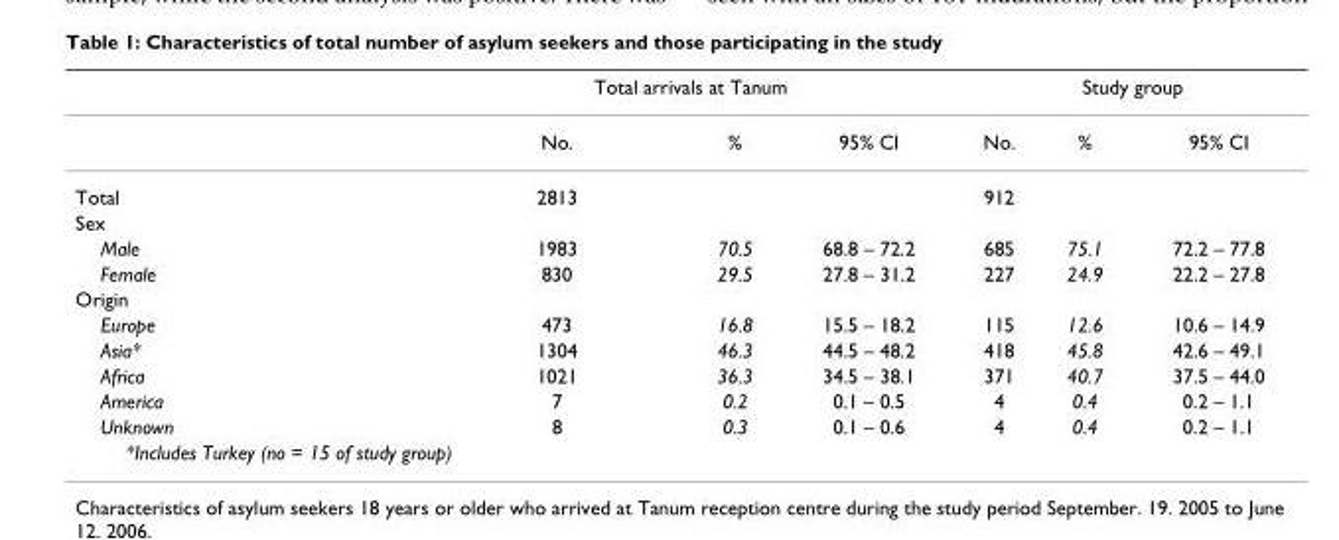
<table><thead><tr><td rowspan="2"></td><td colspan="3">Total arrivals at Tanum</td><td colspan="3">Study group</td></tr><tr><td>No.</td><td>%</td><td>95% CI</td><td>No.</td><td>%</td><td>95% CI</td></tr></thead><tbody><tr><td>Total</td><td>2813</td><td></td><td></td><td>912</td><td></td><td></td></tr><tr><td colspan="7">Sex</td></tr><tr><td>Male</td><td>1983</td><td>70.5</td><td>68.8 – 72.2</td><td>685</td><td>75.1</td><td>72.2 – 77.8</td></tr><tr><td>Female</td><td>830</td><td>29.5</td><td>27.8 – 31.2</td><td>227</td><td>24.9</td><td>22.2 – 27.8</td></tr><tr><td colspan="7">Origin</td></tr><tr><td>Europe</td><td>473</td><td>16.8</td><td>15.5 – 18.2</td><td>115</td><td>12.6</td><td>10.6 – 14.9</td></tr><tr><td>Asia*</td><td>1304</td><td>46.3</td><td>44.5 – 48.2</td><td>418</td><td>45.8</td><td>42.6 – 49.1</td></tr><tr><td>Africa</td><td>1021</td><td>36.3</td><td>34.5 – 38.1</td><td>371</td><td>40.7</td><td>37.5 – 44.0</td></tr><tr><td>America</td><td>7</td><td>0.2</td><td>0.1 – 0.5</td><td>4</td><td>0.4</td><td>0.2 – 1.1</td></tr><tr><td>Unknown</td><td>8</td><td>0.3</td><td>0.1 – 0.6</td><td>4</td><td>0.4</td><td>0.2 – 1.1</td></tr><tr><td colspan="2">*Includes Turkey (no = 15 of study group)</td><td></td><td></td><td></td><td></td><td></td></tr></tbody></table>